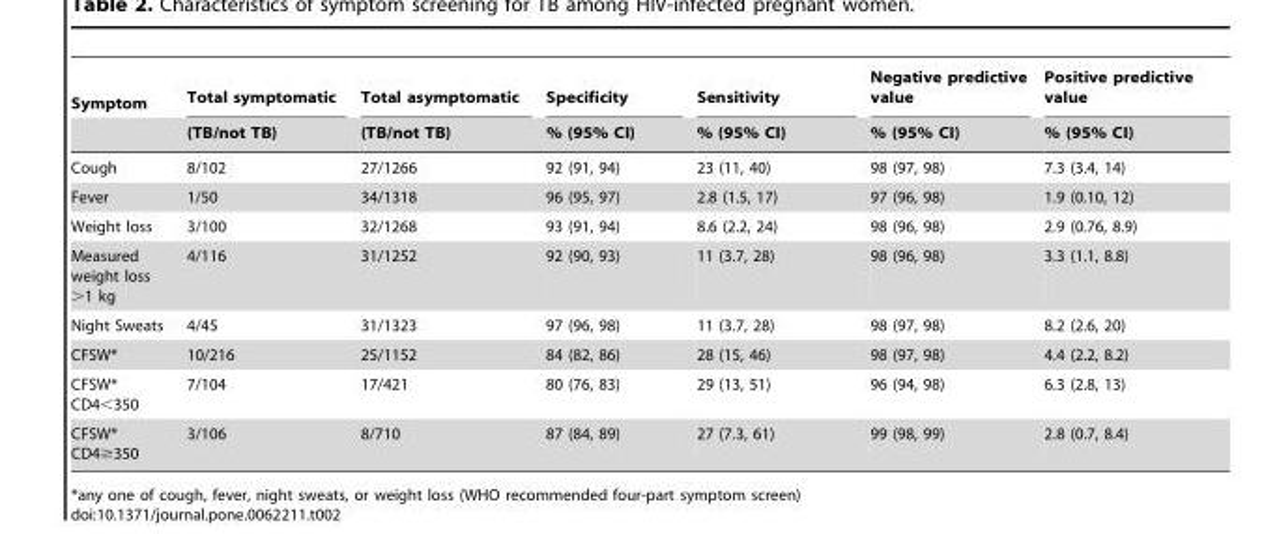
<table><thead><tr><td rowspan="2">Symptom</td><td rowspan="2">Total symptomatic (TB/not TB)</td><td rowspan="2">Total asymptomatic (TB/not TB)</td><td rowspan="2">Specificity % (95% CI)</td><td rowspan="2">Sensitivity % (95% CI)</td><td rowspan="2">Negative predictive value % (95% CI)</td><td rowspan="2">Positive predictive value % (95% CI)</td></tr><tr></tr></thead><tbody><tr><td>Cough</td><td>8/102</td><td>27/1266</td><td>92 (91, 94)</td><td>23 (11, 40)</td><td>98 (97, 98)</td><td>7.3 (3.4, 14)</td></tr><tr><td>Fever</td><td>1/50</td><td>34/1318</td><td>96 (95, 97)</td><td>2.8 (1.5, 17)</td><td>97 (96, 98)</td><td>1.9 (0.10, 12)</td></tr><tr><td>Weight loss</td><td>3/100</td><td>32/1268</td><td>93 (91, 94)</td><td>8.6 (2.2, 24)</td><td>98 (96, 98)</td><td>2.9 (0.76, 8.9)</td></tr><tr><td>Measured weight loss &gt;1 kg</td><td>4/116</td><td>31/1252</td><td>92 (90, 93)</td><td>11 (3.7, 28)</td><td>98 (96, 98)</td><td>3.3 (1.1, 8.8)</td></tr><tr><td>Night Sweats</td><td>4/45</td><td>31/1323</td><td>97 (96, 98)</td><td>11 (3.7, 28)</td><td>98 (97, 98)</td><td>8.2 (2.6, 20)</td></tr><tr><td>CFSW*</td><td>10/216</td><td>25/1152</td><td>84 (82, 86)</td><td>28 (15, 46)</td><td>98 (97, 98)</td><td>4.4 (2.2, 8.2)</td></tr><tr><td>CFSW* CD4&lt;350</td><td>7/104</td><td>17/421</td><td>80 (76, 83)</td><td>29 (13, 51)</td><td>96 (94, 98)</td><td>6.3 (2.8, 13)</td></tr><tr><td>CFSW* CD4≥350</td><td>3/106</td><td>8/710</td><td>87 (84, 89)</td><td>27 (7.3, 61)</td><td>99 (98, 99)</td><td>2.8 (0.7, 8.4)</td></tr></tbody></table>